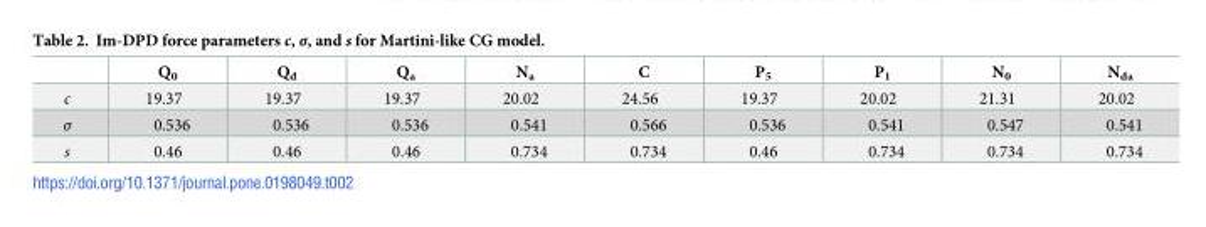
<table><thead><tr><td></td><td>Q<sub>0</sub></td><td>Q<sub>d</sub></td><td>Q<sub>a</sub></td><td>N<sub>a</sub></td><td>C</td><td>P<sub>5</sub></td><td>P<sub>1</sub></td><td>N<sub>0</sub></td><td>N<sub>da</sub></td></tr></thead><tbody><tr><td>c</td><td>19.37</td><td>19.37</td><td>19.37</td><td>20.02</td><td>24.56</td><td>19.37</td><td>20.02</td><td>21.31</td><td>20.02</td></tr><tr><td>σ</td><td>0.536</td><td>0.536</td><td>0.536</td><td>0.541</td><td>0.566</td><td>0.536</td><td>0.541</td><td>0.547</td><td>0.541</td></tr><tr><td>s</td><td>0.46</td><td>0.46</td><td>0.46</td><td>0.734</td><td>0.734</td><td>0.46</td><td>0.734</td><td>0.734</td><td>0.734</td></tr></tbody></table>